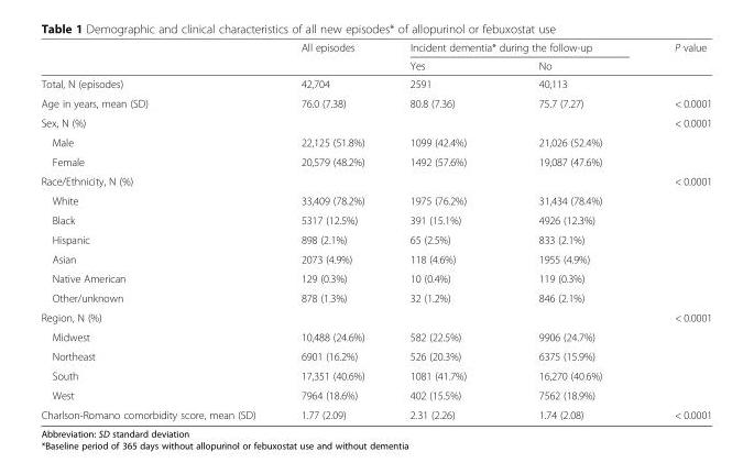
<table><thead><tr><td rowspan="2"></td><td rowspan="2">All episodes</td><td colspan="2">Incident dementia* during the follow-up</td><td rowspan="2">P value</td></tr><tr><td>Yes</td><td>No</td></tr></thead><tbody><tr><td>Total, N (episodes)</td><td>42,704</td><td>2591</td><td>40,113</td><td></td></tr><tr><td>Age in years, mean (SD)</td><td>76.0 (7.38)</td><td>80.8 (7.36)</td><td>75.7 (7.27)</td><td>&lt; 0.0001</td></tr><tr><td>Sex, N (%)</td><td></td><td></td><td></td><td>&lt; 0.0001</td></tr><tr><td>Male</td><td>22,125 (51.8%)</td><td>1099 (42.4%)</td><td>21,026 (52.4%)</td><td rowspan="2"></td></tr><tr><td>Female</td><td>20,579 (48.2%)</td><td>1492 (57.6%)</td><td>19,087 (47.6%)</td></tr><tr><td>Race/Ethnicity, N (%)</td><td></td><td></td><td></td><td>&lt; 0.0001</td></tr><tr><td>White</td><td>33,409 (78.2%)</td><td>1975 (76.2%)</td><td>31,434 (78.4%)</td><td rowspan="6"></td></tr><tr><td>Black</td><td>5317 (12.5%)</td><td>391 (15.1%)</td><td>4926 (12.3%)</td></tr><tr><td>Hispanic</td><td>898 (2.1%)</td><td>65 (2.5%)</td><td>833 (2.1%)</td></tr><tr><td>Asian</td><td>2073 (4.9%)</td><td>118 (4.6%)</td><td>1955 (4.9%)</td></tr><tr><td>Native American</td><td>129 (0.3%)</td><td>10 (0.4%)</td><td>119 (0.3%)</td></tr><tr><td>Other/unknown</td><td>878 (1.3%)</td><td>32 (1.2%)</td><td>846 (2.1%)</td></tr><tr><td>Region, N (%)</td><td></td><td></td><td></td><td>&lt; 0.0001</td></tr><tr><td>Midwest</td><td>10,488 (24.6%)</td><td>582 (22.5%)</td><td>9906 (24.7%)</td><td rowspan="4"></td></tr><tr><td>Northeast</td><td>6901 (16.2%)</td><td>526 (20.3%)</td><td>6375 (15.9%)</td></tr><tr><td>South</td><td>17,351 (40.6%)</td><td>1081 (41.7%)</td><td>16,270 (40.6%)</td></tr><tr><td>West</td><td>7964 (18.6%)</td><td>402 (15.5%)</td><td>7562 (18.9%)</td></tr><tr><td>Charlson-Romano comorbidity score, mean (SD)</td><td>1.77 (2.09)</td><td>2.31 (2.26)</td><td>1.74 (2.08)</td><td>&lt; 0.0001</td></tr></tbody></table>